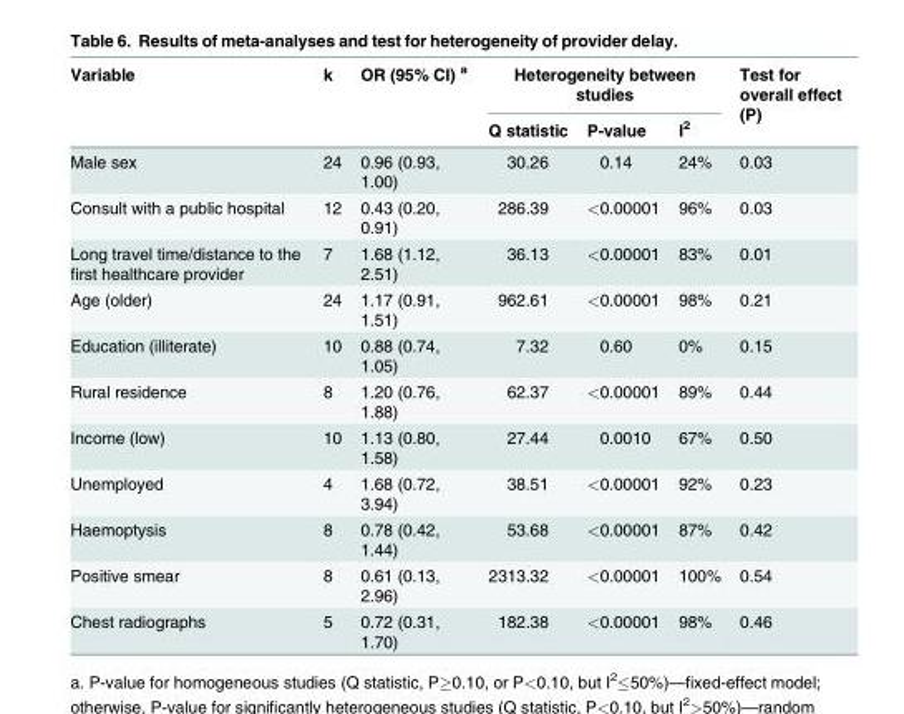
<table><thead><tr><td rowspan="2">Variable</td><td rowspan="2">k</td><td rowspan="2">OR (95% CI) <sup>a</sup></td><td colspan="3">Heterogeneity between studies</td><td rowspan="2">Test for overall effect (P)</td></tr><tr><td>Q statistic</td><td>P-value</td><td>I<sup>2</sup></td></tr></thead><tbody><tr><td>Male sex</td><td>24</td><td>0.96 (0.93, 1.00)</td><td>30.26</td><td>0.14</td><td>24%</td><td>0.03</td></tr><tr><td>Consult with a public hospital</td><td>12</td><td>0.43 (0.20, 0.91)</td><td>286.39</td><td>&lt;0.00001</td><td>96%</td><td>0.03</td></tr><tr><td>Long travel time/distance to the first healthcare provider</td><td>7</td><td>1.68 (1.12, 2.51)</td><td>36.13</td><td>&lt;0.00001</td><td>83%</td><td>0.01</td></tr><tr><td>Age (older)</td><td>24</td><td>1.17 (0.91, 1.51)</td><td>962.61</td><td>&lt;0.00001</td><td>98%</td><td>0.21</td></tr><tr><td>Education (illiterate)</td><td>10</td><td>0.88 (0.74, 1.05)</td><td>7.32</td><td>0.60</td><td>0%</td><td>0.15</td></tr><tr><td>Rural residence</td><td>8</td><td>1.20 (0.76, 1.88)</td><td>62.37</td><td>&lt;0.00001</td><td>89%</td><td>0.44</td></tr><tr><td>Income (low)</td><td>10</td><td>1.13 (0.80, 1.58)</td><td>27.44</td><td>0.0010</td><td>67%</td><td>0.50</td></tr><tr><td>Unemployed</td><td>4</td><td>1.68 (0.72, 3.94)</td><td>38.51</td><td>&lt;0.00001</td><td>92%</td><td>0.23</td></tr><tr><td>Haemoptysis</td><td>8</td><td>0.78 (0.42, 1.44)</td><td>53.68</td><td>&lt;0.00001</td><td>87%</td><td>0.42</td></tr><tr><td>Positive smear</td><td>8</td><td>0.61 (0.13, 2.96)</td><td>2313.32</td><td>&lt;0.00001</td><td>100%</td><td>0.54</td></tr><tr><td>Chest radiographs</td><td>5</td><td>0.72 (0.31, 1.70)</td><td>182.38</td><td>&lt;0.00001</td><td>98%</td><td>0.46</td></tr></tbody></table>